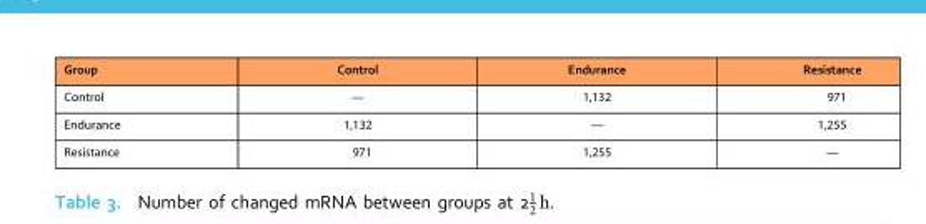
<table><thead><tr><td>Group</td><td>Control</td><td>Endurance</td><td>Resistance</td></tr></thead><tbody><tr><td>Control</td><td>—</td><td>1,132</td><td>971</td></tr><tr><td>Endurance</td><td>1,132</td><td>—</td><td>1,255</td></tr><tr><td>Resistance</td><td>971</td><td>1,255</td><td>—</td></tr></tbody></table>